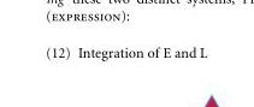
<table><tbody><tr><td>(12)</td><td>Integration of E and L</td></tr></tbody></table>